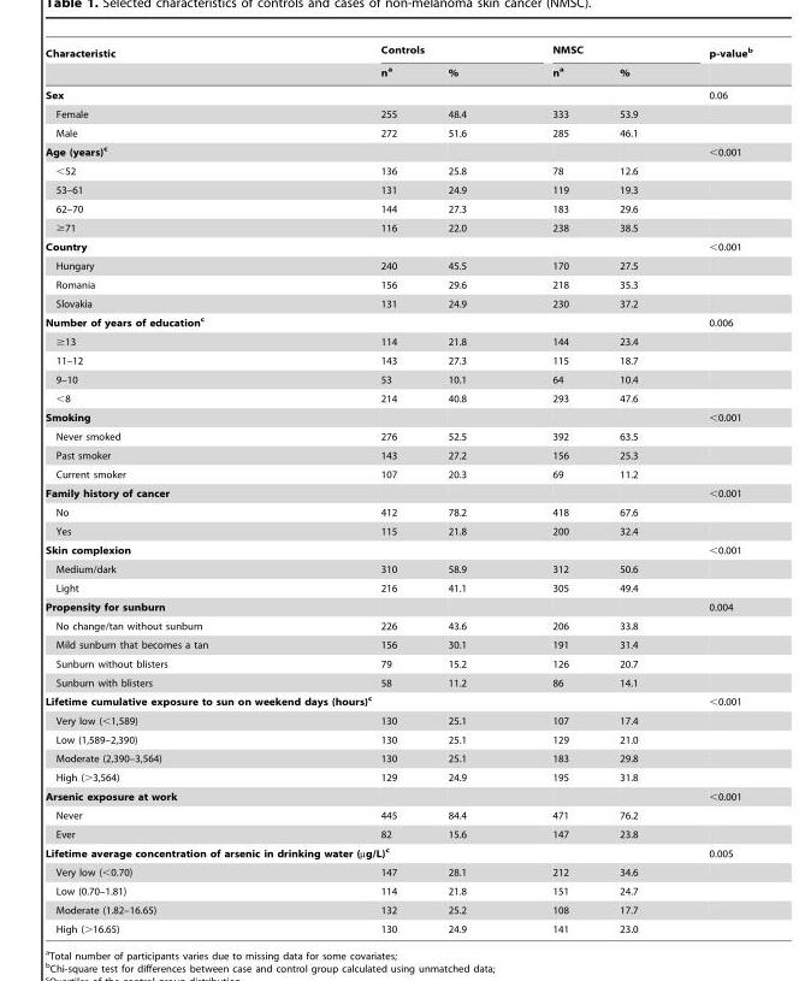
<table><thead><tr><td rowspan="2">Characteristic</td><td colspan="2">Controls</td><td colspan="2">NMSC</td><td rowspan="2">p-value<sup>b</sup></td></tr><tr><td>n<sup>a</sup></td><td>%</td><td>n<sup>a</sup></td><td>%</td></tr></thead><tbody><tr><td>Sex</td><td></td><td></td><td></td><td></td><td>0.06</td></tr><tr><td>Female</td><td>255</td><td>48.4</td><td>333</td><td>53.9</td><td></td></tr><tr><td>Male</td><td>272</td><td>51.6</td><td>285</td><td>46.1</td><td></td></tr><tr><td>Age (years)c</td><td></td><td></td><td></td><td></td><td>&lt;0.001</td></tr><tr><td>&lt;52</td><td>136</td><td>25.8</td><td>78</td><td>12.6</td><td></td></tr><tr><td>53–61</td><td>131</td><td>24.9</td><td>119</td><td>19.3</td><td></td></tr><tr><td>62–70</td><td>144</td><td>27.3</td><td>183</td><td>29.6</td><td></td></tr><tr><td>≥71</td><td>116</td><td>22.0</td><td>238</td><td>38.5</td><td></td></tr><tr><td>Country</td><td></td><td></td><td></td><td></td><td>&lt;0.001</td></tr><tr><td>Hungary</td><td>240</td><td>45.5</td><td>170</td><td>27.5</td><td></td></tr><tr><td>Romania</td><td>156</td><td>29.6</td><td>218</td><td>35.3</td><td></td></tr><tr><td>Slovakia</td><td>131</td><td>24.9</td><td>230</td><td>37.2</td><td></td></tr><tr><td>Number of years of educationc</td><td></td><td></td><td></td><td></td><td>0.006</td></tr><tr><td>≥13</td><td>114</td><td>21.8</td><td>144</td><td>23.4</td><td></td></tr><tr><td>11–12</td><td>143</td><td>27.3</td><td>115</td><td>18.7</td><td></td></tr><tr><td>9–10</td><td>53</td><td>10.1</td><td>64</td><td>10.4</td><td></td></tr><tr><td>&lt;8</td><td>214</td><td>40.8</td><td>293</td><td>47.6</td><td></td></tr><tr><td>Smoking</td><td></td><td></td><td></td><td></td><td>&lt;0.001</td></tr><tr><td>Never smoked</td><td>276</td><td>52.5</td><td>392</td><td>63.5</td><td></td></tr><tr><td>Past smoker</td><td>143</td><td>27.2</td><td>156</td><td>25.3</td><td></td></tr><tr><td>Current smoker</td><td>107</td><td>20.3</td><td>69</td><td>11.2</td><td></td></tr><tr><td>Family history of cancer</td><td></td><td></td><td></td><td></td><td>&lt;0.001</td></tr><tr><td>No</td><td>412</td><td>78.2</td><td>418</td><td>67.6</td><td></td></tr><tr><td>Yes</td><td>115</td><td>21.8</td><td>200</td><td>32.4</td><td></td></tr><tr><td>Skin complexion</td><td></td><td></td><td></td><td></td><td>&lt;0.001</td></tr><tr><td>Medium/dark</td><td>310</td><td>58.9</td><td>312</td><td>50.6</td><td></td></tr><tr><td>Light</td><td>216</td><td>41.1</td><td>305</td><td>49.4</td><td></td></tr><tr><td>Propensity for sunburn</td><td></td><td></td><td></td><td></td><td>0.004</td></tr><tr><td>No change/tan without sunburn</td><td>226</td><td>43.6</td><td>206</td><td>33.8</td><td></td></tr><tr><td>Mild sunburn that becomes a tan</td><td>156</td><td>30.1</td><td>191</td><td>31.4</td><td></td></tr><tr><td>Sunburn without blisters</td><td>79</td><td>15.2</td><td>126</td><td>20.7</td><td></td></tr><tr><td>Sunburn with blisters</td><td>58</td><td>11.2</td><td>86</td><td>14.1</td><td></td></tr><tr><td colspan="4">Lifetime cumulative exposure to sun on weekend days (hours)c</td><td></td><td>&lt;0.001</td></tr><tr><td>Very low (&lt;1,589)</td><td>130</td><td>25.1</td><td>107</td><td>17.4</td><td></td></tr><tr><td>Low (1,589–2,390)</td><td>130</td><td>25.1</td><td>129</td><td>21.0</td><td></td></tr><tr><td>Moderate (2,390–3,564)</td><td>130</td><td>25.1</td><td>183</td><td>29.8</td><td></td></tr><tr><td>High (&gt;3,564)</td><td>129</td><td>24.9</td><td>195</td><td>31.8</td><td></td></tr><tr><td>Arsenic exposure at work</td><td></td><td></td><td></td><td></td><td>&lt;0.001</td></tr><tr><td>Never</td><td>445</td><td>84.4</td><td>471</td><td>76.2</td><td></td></tr><tr><td>Ever</td><td>82</td><td>15.6</td><td>147</td><td>23.8</td><td></td></tr><tr><td colspan="4">Lifetime average concentration of arsenic in drinking water (µg/L)c</td><td></td><td>0.005</td></tr><tr><td>Very low (&lt;0.70)</td><td>147</td><td>28.1</td><td>212</td><td>34.6</td><td></td></tr><tr><td>Low (0.70–1.81)</td><td>114</td><td>21.8</td><td>151</td><td>24.7</td><td></td></tr><tr><td>Moderate (1.82–16.65)</td><td>132</td><td>25.2</td><td>108</td><td>17.7</td><td></td></tr><tr><td>High (&gt;16.65)</td><td>130</td><td>24.9</td><td>141</td><td>23.0</td><td></td></tr></tbody></table>